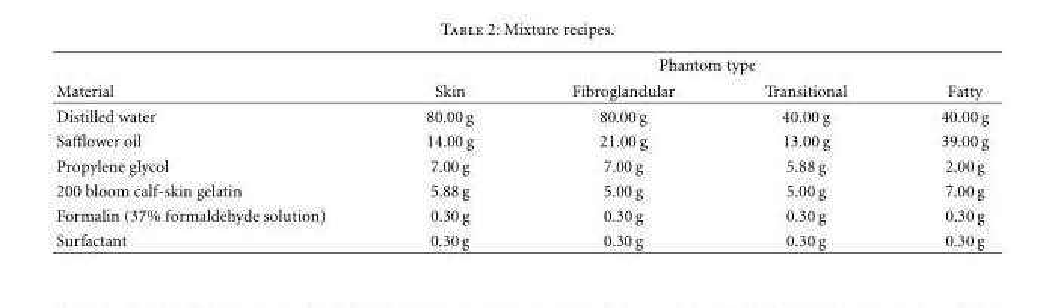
<table><thead><tr><td rowspan="2">Material</td><td colspan="4">Phantom type</td></tr><tr><td>Skin</td><td>Fibroglandular</td><td>Transitional</td><td>Fatty</td></tr></thead><tbody><tr><td>Distilled water</td><td>80.00 g</td><td>80.00 g</td><td>40.00 g</td><td>40.00 g</td></tr><tr><td>Safflower oil</td><td>14.00 g</td><td>21.00 g</td><td>13.00 g</td><td>39.00 g</td></tr><tr><td>Propylene glycol</td><td>7.00 g</td><td>7.00 g</td><td>5.88 g</td><td>2.00 g</td></tr><tr><td>200 bloom calf-skin gelatin</td><td>5.88 g</td><td>5.00 g</td><td>5.00 g</td><td>7.00 g</td></tr><tr><td>Formalin (37% formaldehyde solution)</td><td>0.30 g</td><td>0.30 g</td><td>0.30 g</td><td>0.30 g</td></tr><tr><td>Surfactant</td><td>0.30 g</td><td>0.30 g</td><td>0.30 g</td><td>0.30 g</td></tr></tbody></table>